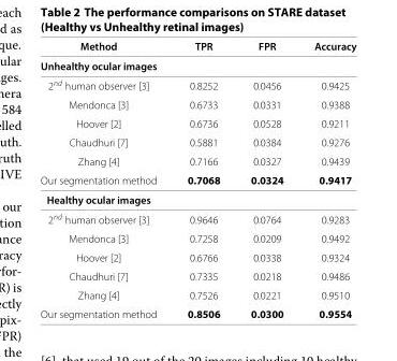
<table><thead><tr><td>Method</td><td>TPR</td><td>FPR</td><td>Accuracy</td></tr></thead><tbody><tr><td colspan="4">Unhealthy ocular images</td></tr><tr><td>2<sup>nd</sup> human observer [3]</td><td>0.8252</td><td>0.0456</td><td>0.9425</td></tr><tr><td>Mendonca [3]</td><td>0.6733</td><td>0.0331</td><td>0.9388</td></tr><tr><td>Hoover [2]</td><td>0.6736</td><td>0.0528</td><td>0.9211</td></tr><tr><td>Chaudhuri [7]</td><td>0.5881</td><td>0.0384</td><td>0.9276</td></tr><tr><td>Zhang [4]</td><td>0.7166</td><td>0.0327</td><td>0.9439</td></tr><tr><td>Our segmentation method</td><td>0.7068</td><td>0.0324</td><td>0.9417</td></tr><tr><td colspan="4">Healthy ocular images</td></tr><tr><td>2<sup>nd</sup> human observer [3]</td><td>0.9646</td><td>0.0764</td><td>0.9283</td></tr><tr><td>Mendonca [3]</td><td>0.7258</td><td>0.0209</td><td>0.9492</td></tr><tr><td>Hoover [2]</td><td>0.6766</td><td>0.0338</td><td>0.9324</td></tr><tr><td>Chaudhuri [7]</td><td>0.7335</td><td>0.0218</td><td>0.9486</td></tr><tr><td>Zhang [4]</td><td>0.7526</td><td>0.0221</td><td>0.9510</td></tr><tr><td>Our segmentation method</td><td>0.8506</td><td>0.0300</td><td>0.9554</td></tr></tbody></table>